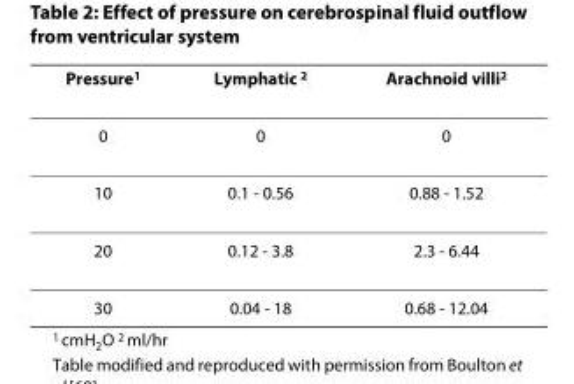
<table><thead><tr><td>Pressure<sup>1</sup></td><td>Lymphatic <sup>2</sup></td><td>Arachnoid villi<sup>2</sup></td></tr></thead><tbody><tr><td>0</td><td>0</td><td>0</td></tr><tr><td>10</td><td>0.1 - 0.56</td><td>0.88 - 1.52</td></tr><tr><td>20</td><td>0.12 - 3.8</td><td>2.3 - 6.44</td></tr><tr><td>30</td><td>0.04 - 18</td><td>0.68 - 12.04</td></tr></tbody></table>